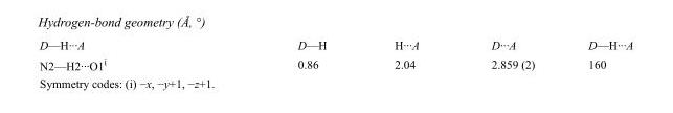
<table><tbody><tr><td>D—H···A</td><td>D—H</td><td>H···A</td><td>D···A</td><td>D—H···A</td></tr><tr><td>N2—H2···O1<sup>i</sup></td><td>0.86</td><td>2.04</td><td>2.859 (2)</td><td>160</td></tr></tbody></table>